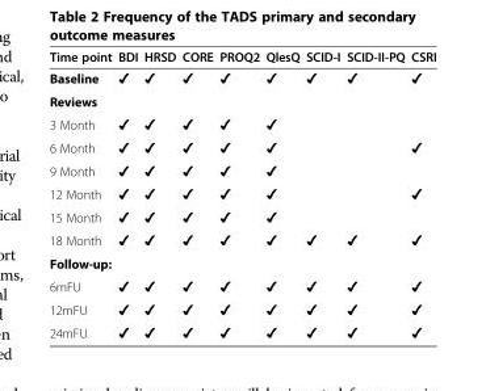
<table><thead><tr><td>Time point</td><td>BDI</td><td>HRSD</td><td>CORE</td><td>PROQ2</td><td>QlesQ</td><td>SCID-I</td><td>SCID-II-PQ</td><td>CSRI</td></tr></thead><tbody><tr><td>Baseline</td><td>✔</td><td>✔</td><td>✔</td><td>✔</td><td>✔</td><td>✔</td><td>✔</td><td>✔</td></tr><tr><td colspan="9">Reviews</td></tr><tr><td>3 Month</td><td>✔</td><td>✔</td><td>✔</td><td>✔</td><td>✔</td><td></td><td></td><td></td></tr><tr><td>6 Month</td><td>✔</td><td>✔</td><td>✔</td><td>✔</td><td>✔</td><td></td><td></td><td>✔</td></tr><tr><td>9 Month</td><td>✔</td><td>✔</td><td>✔</td><td>✔</td><td>✔</td><td></td><td></td><td></td></tr><tr><td>12 Month</td><td>✔</td><td>✔</td><td>✔</td><td>✔</td><td>✔</td><td></td><td></td><td>✔</td></tr><tr><td>15 Month</td><td>✔</td><td>✔</td><td>✔</td><td>✔</td><td>✔</td><td></td><td></td><td></td></tr><tr><td>18 Month</td><td>✔</td><td>✔</td><td>✔</td><td>✔</td><td>✔</td><td>✔</td><td>✔</td><td>✔</td></tr><tr><td colspan="9">Follow-up:</td></tr><tr><td>6mFU</td><td>✔</td><td>✔</td><td>✔</td><td>✔</td><td>✔</td><td>✔</td><td>✔</td><td>✔</td></tr><tr><td>12mFU</td><td>✔</td><td>✔</td><td>✔</td><td>✔</td><td>✔</td><td>✔</td><td>✔</td><td>✔</td></tr><tr><td>24mFU</td><td>✔</td><td>✔</td><td>✔</td><td>✔</td><td>✔</td><td>✔</td><td>✔</td><td>✔</td></tr></tbody></table>